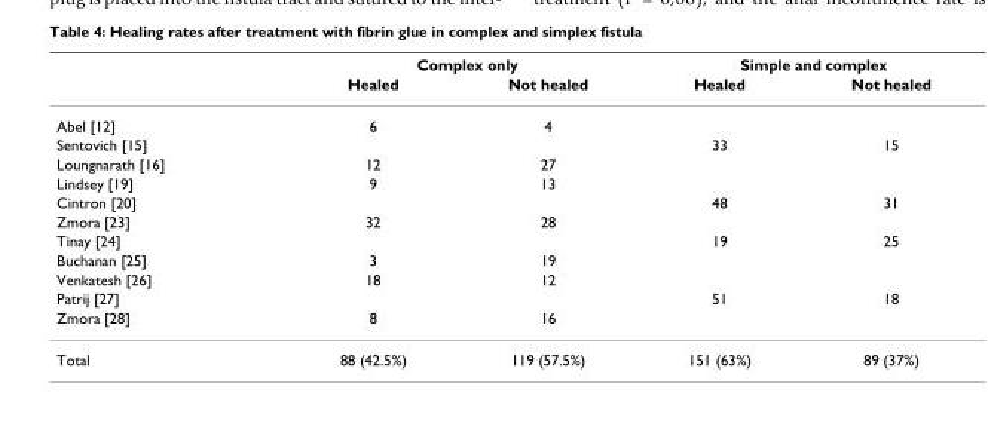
<table><thead><tr><td rowspan="2"></td><td colspan="2">Complex only</td><td colspan="2">Simple and complex</td></tr><tr><td>Healed</td><td>Not healed</td><td>Healed</td><td>Not healed</td></tr></thead><tbody><tr><td>Abel [12]</td><td>6</td><td>4</td><td></td><td></td></tr><tr><td>Sentovich [15]</td><td></td><td></td><td>33</td><td>15</td></tr><tr><td>Loungnarath [16]</td><td>12</td><td>27</td><td></td><td></td></tr><tr><td>Lindsey [19]</td><td>9</td><td>13</td><td></td><td></td></tr><tr><td>Cintron [20]</td><td></td><td></td><td>48</td><td>31</td></tr><tr><td>Zmora [23]</td><td>32</td><td>28</td><td></td><td></td></tr><tr><td>Tinay [24]</td><td></td><td></td><td>19</td><td>25</td></tr><tr><td>Buchanan [25]</td><td>3</td><td>19</td><td></td><td></td></tr><tr><td>Venkatesh [26]</td><td>18</td><td>12</td><td></td><td></td></tr><tr><td>Patrij [27]</td><td></td><td></td><td>51</td><td>18</td></tr><tr><td>Zmora [28]</td><td>8</td><td>16</td><td></td><td></td></tr><tr><td>Total</td><td>88 (42.5%)</td><td>119 (57.5%)</td><td>151 (63%)</td><td>89 (37%)</td></tr></tbody></table>